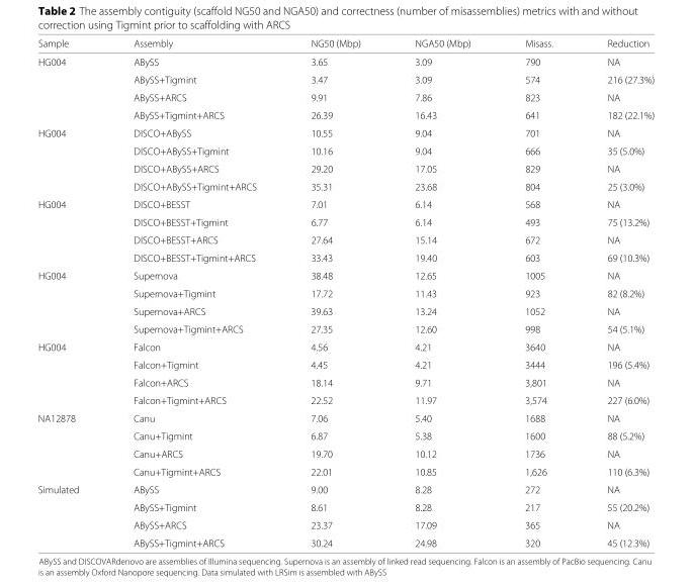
<table><thead><tr><td>Sample</td><td>Assembly</td><td>NG50 (Mbp)</td><td>NGA50 (Mbp)</td><td>Misass.</td><td>Reduction</td></tr></thead><tbody><tr><td rowspan="4">HG004</td><td>ABySS</td><td>3.65</td><td>3.09</td><td>790</td><td>NA</td></tr><tr><td>ABySS+Tigmint</td><td>3.47</td><td>3.09</td><td>574</td><td>216 (27.3%)</td></tr><tr><td>ABySS+ARCS</td><td>9.91</td><td>7.86</td><td>823</td><td>NA</td></tr><tr><td>ABySS+Tigmint+ARCS</td><td>26.39</td><td>16.43</td><td>641</td><td>182 (22.1%)</td></tr><tr><td rowspan="4">HG004</td><td>DISCO+ABySS</td><td>10.55</td><td>9.04</td><td>701</td><td>NA</td></tr><tr><td>DISCO+ABySS+Tigmint</td><td>10.16</td><td>9.04</td><td>666</td><td>35 (5.0%)</td></tr><tr><td>DISCO+ABySS+ARCS</td><td>29.20</td><td>17.05</td><td>829</td><td>NA</td></tr><tr><td>DISCO+ABySS+Tigmint+ARCS</td><td>35.31</td><td>23.68</td><td>804</td><td>25 (3.0%)</td></tr><tr><td rowspan="4">HG004</td><td>DISCO+BESST</td><td>7.01</td><td>6.14</td><td>568</td><td>NA</td></tr><tr><td>DISCO+BESST+Tigmint</td><td>6.77</td><td>6.14</td><td>493</td><td>75 (13.2%)</td></tr><tr><td>DISCO+BESST+ARCS</td><td>27.64</td><td>15.14</td><td>672</td><td>NA</td></tr><tr><td>DISCO+BESST+Tigmint+ARCS</td><td>33.43</td><td>19.40</td><td>603</td><td>69 (10.3%)</td></tr><tr><td rowspan="4">HG004</td><td>Supernova</td><td>38.48</td><td>12.65</td><td>1005</td><td>NA</td></tr><tr><td>Supernova+Tigmint</td><td>17.72</td><td>11.43</td><td>923</td><td>82 (8.2%)</td></tr><tr><td>Supernova+ARCS</td><td>39.63</td><td>13.24</td><td>1052</td><td>NA</td></tr><tr><td>Supernova+Tigmint+ARCS</td><td>27.35</td><td>12.60</td><td>998</td><td>54 (5.1%)</td></tr><tr><td rowspan="4">HG004</td><td>Falcon</td><td>4.56</td><td>4.21</td><td>3640</td><td>NA</td></tr><tr><td>Falcon+Tigmint</td><td>4.45</td><td>4.21</td><td>3444</td><td>196 (5.4%)</td></tr><tr><td>Falcon+ARCS</td><td>18.14</td><td>9.71</td><td>3,801</td><td>NA</td></tr><tr><td>Falcon+Tigmint+ARCS</td><td>22.52</td><td>11.97</td><td>3,574</td><td>227 (6.0%)</td></tr><tr><td rowspan="4">NA12878</td><td>Canu</td><td>7.06</td><td>5.40</td><td>1688</td><td>NA</td></tr><tr><td>Canu+Tigmint</td><td>6.87</td><td>5.38</td><td>1600</td><td>88 (5.2%)</td></tr><tr><td>Canu+ARCS</td><td>19.70</td><td>10.12</td><td>1736</td><td>NA</td></tr><tr><td>Canu+Tigmint+ARCS</td><td>22.01</td><td>10.85</td><td>1,626</td><td>110 (6.3%)</td></tr><tr><td rowspan="4">Simulated</td><td>ABySS</td><td>9.00</td><td>8.28</td><td>272</td><td>NA</td></tr><tr><td>ABySS+Tigmint</td><td>8.61</td><td>8.28</td><td>217</td><td>55 (20.2%)</td></tr><tr><td>ABySS+ARCS</td><td>23.37</td><td>17.09</td><td>365</td><td>NA</td></tr><tr><td>ABySS+Tigmint+ARCS</td><td>30.24</td><td>24.98</td><td>320</td><td>45 (12.3%)</td></tr></tbody></table>